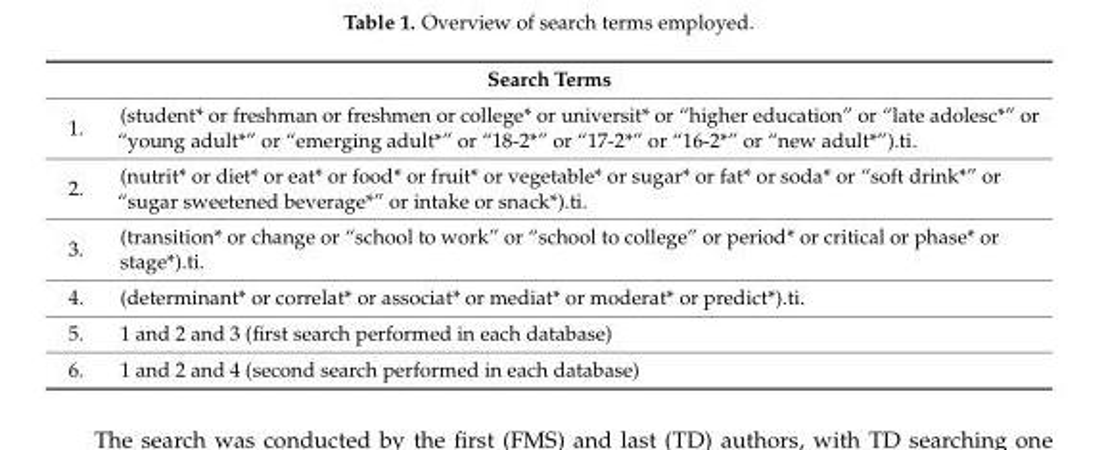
<table><thead><tr><td colspan="2">Search Terms</td></tr><tr><td>1.</td><td>(student* or freshman or freshmen or college* or universit* or “higher education” or “late adolesc*” or “young adult*” or “emerging adult*” or “18-2*” or “17-2*” or “16-2*” or “new adult*”).ti.</td></tr></thead><tbody><tr><td>2.</td><td>(nutrit* or diet* or eat* or food* or fruit* or vegetable* or sugar* or fat* or soda* or “soft drink*” or “sugar sweetened beverage*” or intake or snack*).ti.</td></tr><tr><td>3.</td><td>(transition* or change or “school to work” or “school to college” or period* or critical or phase* or stage*).ti.</td></tr><tr><td>4.</td><td>(determinant* or correlat* or associat* or mediat* or moderat* or predict*).ti.</td></tr><tr><td>5.</td><td>1 and 2 and 3 (first search performed in each database)</td></tr><tr><td>6.</td><td>1 and 2 and 4 (second search performed in each database)</td></tr></tbody></table>